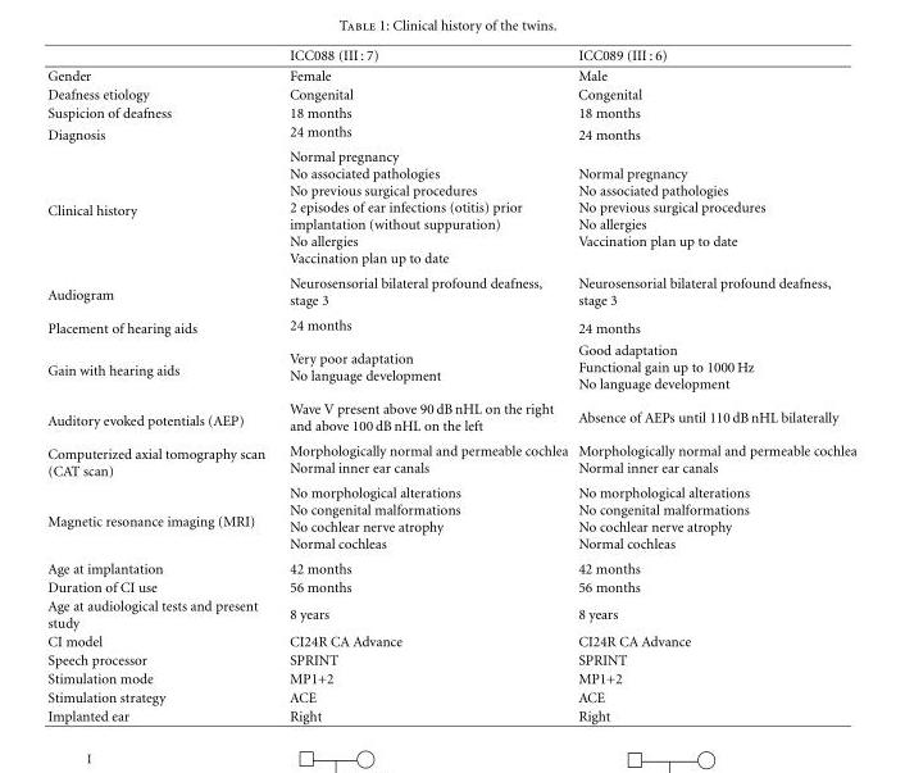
<table><thead><tr><td></td><td>ICC088 (III : 7)</td><td>ICC089 (III : 6)</td></tr></thead><tbody><tr><td>Gender</td><td>Female</td><td>Male</td></tr><tr><td>Deafness etiology</td><td>Congenital</td><td>Congenital</td></tr><tr><td>Suspicion of deafness</td><td>18 months</td><td>18 months</td></tr><tr><td>Diagnosis</td><td>24 months</td><td>24 months</td></tr><tr><td>Clinical history</td><td>Normal pregnancy No associated pathologies No previous surgical procedures 2 episodes of ear infections (otitis) prior implantation (without suppuration) No allergies Vaccination plan up to date</td><td>Normal pregnancy No associated pathologies No previous surgical procedures No allergies Vaccination plan up to date</td></tr><tr><td>Audiogram</td><td>Neurosensorial bilateral profound deafness, stage 3</td><td>Neurosensorial bilateral profound deafness, stage 3</td></tr><tr><td>Placement of hearing aids</td><td>24 months</td><td>24 months</td></tr><tr><td>Gain with hearing aids</td><td>Very poor adaptation No language development</td><td>Good adaptation Functional gain up to 1000 Hz No language development</td></tr><tr><td>Auditory evoked potentials (AEP)</td><td>Wave V present above 90 dB nHL on the right and above 100 dB nHL on the left</td><td>Absence of AEPs until 110 dB nHL bilaterally</td></tr><tr><td>Computerized axial tomography scan (CAT scan)</td><td>Morphologically normal and permeable cochlea Normal inner ear canals</td><td>Morphologically normal and permeable cochlea Normal inner ear canals</td></tr><tr><td>Magnetic resonance imaging (MRI)</td><td>No morphological alterations No congenital malformations No cochlear nerve atrophy Normal cochleas</td><td>No morphological alterations No congenital malformations No cochlear nerve atrophy Normal cochleas</td></tr><tr><td>Age at implantation</td><td>42 months</td><td>42 months</td></tr><tr><td>Duration of CI use</td><td>56 months</td><td>56 months</td></tr><tr><td>Age at audiological tests and present study</td><td>8 years</td><td>8 years</td></tr><tr><td>CI model</td><td>CI24R CA Advance</td><td>CI24R CA Advance</td></tr><tr><td>Speech processor</td><td>SPRINT</td><td>SPRINT</td></tr><tr><td>Stimulation mode</td><td>MP1+2</td><td>MP1+2</td></tr><tr><td>Stimulation strategy</td><td>ACE</td><td>ACE</td></tr><tr><td>Implanted ear</td><td>Right</td><td>Right</td></tr></tbody></table>